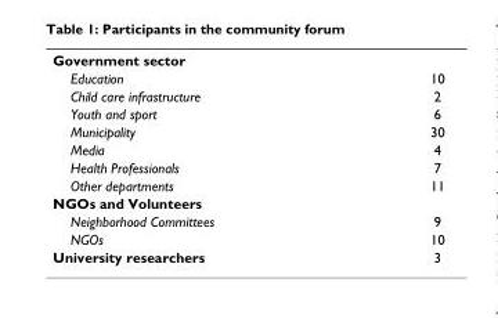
<table><tbody><tr><td colspan="2">Government sector</td></tr><tr><td>Education</td><td>10</td></tr><tr><td>Child care infrastructure</td><td>2</td></tr><tr><td>Youth and sport</td><td>6</td></tr><tr><td>Municipality</td><td>30</td></tr><tr><td>Media</td><td>4</td></tr><tr><td>Health Professionals</td><td>7</td></tr><tr><td>Other departments</td><td>11</td></tr><tr><td colspan="2">NGOs and Volunteers</td></tr><tr><td>Neighborhood Committees</td><td>9</td></tr><tr><td>NGOs</td><td>10</td></tr><tr><td>University researchers</td><td>3</td></tr></tbody></table>